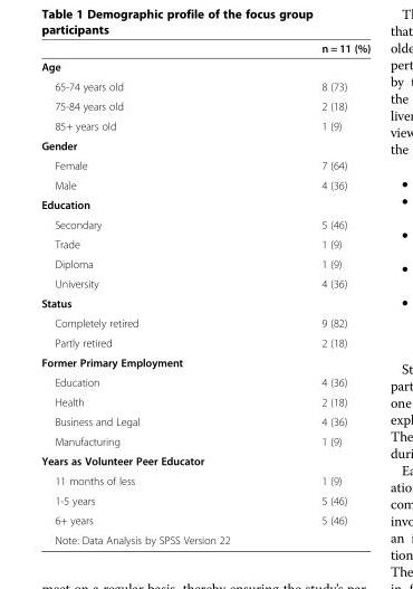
<table><thead><tr><td></td><td>n = 11 (%)</td></tr></thead><tbody><tr><td colspan="2">Age</td></tr><tr><td>65-74 years old</td><td>8 (73)</td></tr><tr><td>75-84 years old</td><td>2 (18)</td></tr><tr><td>85+ years old</td><td>1 (9)</td></tr><tr><td colspan="2">Gender</td></tr><tr><td>Female</td><td>7 (64)</td></tr><tr><td>Male</td><td>4 (36)</td></tr><tr><td colspan="2">Education</td></tr><tr><td>Secondary</td><td>5 (46)</td></tr><tr><td>Trade</td><td>1 (9)</td></tr><tr><td>Diploma</td><td>1 (9)</td></tr><tr><td>University</td><td>4 (36)</td></tr><tr><td colspan="2">Status</td></tr><tr><td>Completely retired</td><td>9 (82)</td></tr><tr><td>Partly retired</td><td>2 (18)</td></tr><tr><td colspan="2">Former Primary Employment</td></tr><tr><td>Education</td><td>4 (36)</td></tr><tr><td>Health</td><td>2 (18)</td></tr><tr><td>Business and Legal</td><td>4 (36)</td></tr><tr><td>Manufacturing</td><td>1 (9)</td></tr><tr><td colspan="2">Years as Volunteer Peer Educator</td></tr><tr><td>11 months of less</td><td>1 (9)</td></tr><tr><td>1-5 years</td><td>5 (46)</td></tr><tr><td>6+ years</td><td>5 (46)</td></tr><tr><td>Note: Data Analysis by SPSS Version 22</td><td></td></tr></tbody></table>